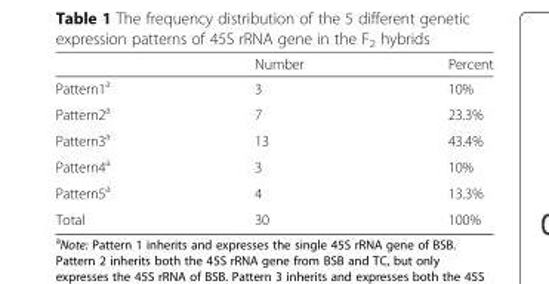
<table><thead><tr><td></td><td>Number</td><td>Percent</td></tr></thead><tbody><tr><td>Pattern1<sup>a</sup></td><td>3</td><td>10%</td></tr><tr><td>Pattern2<sup>a</sup></td><td>7</td><td>23.3%</td></tr><tr><td>Pattern3<sup>a</sup></td><td>13</td><td>43.4%</td></tr><tr><td>Pattern4<sup>a</sup></td><td>3</td><td>10%</td></tr><tr><td>Pattern5<sup>a</sup></td><td>4</td><td>13.3%</td></tr><tr><td>Total</td><td>30</td><td>100%</td></tr></tbody></table>